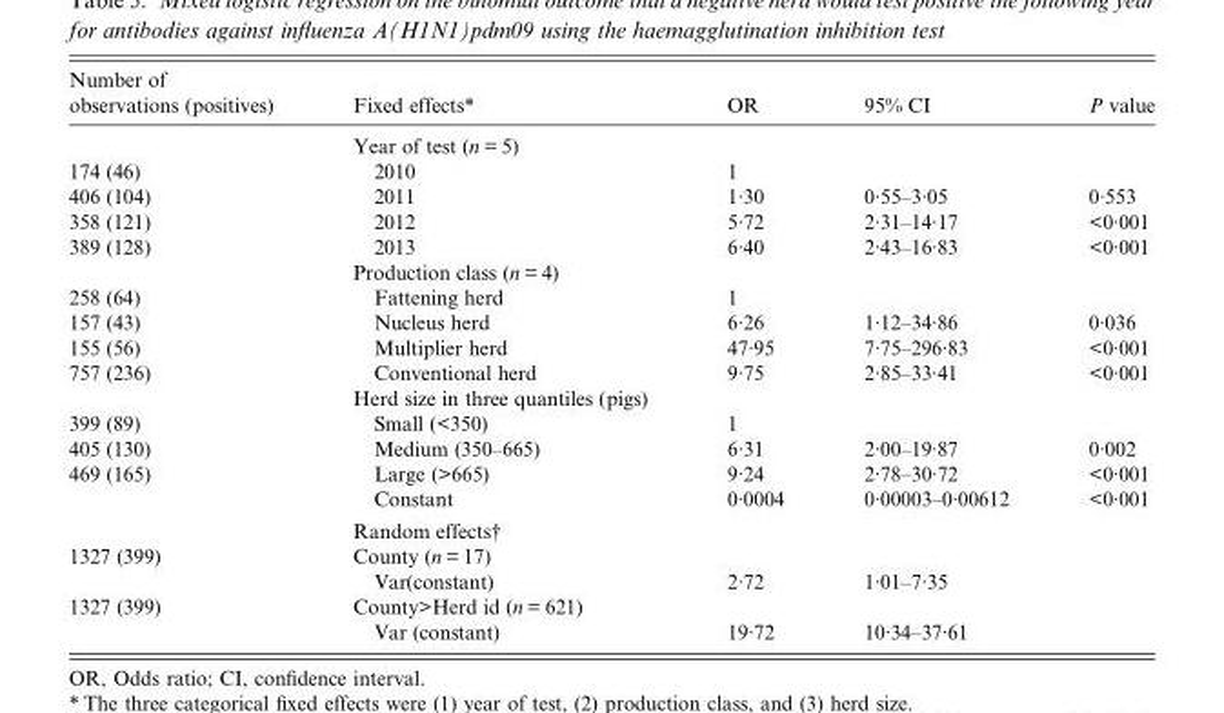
<table><thead><tr><td>Number of observations (positives)</td><td>Fixed effects*</td><td>OR</td><td>95% CI</td><td>P value</td></tr></thead><tbody><tr><td></td><td>Year of test (n = 5)</td><td></td><td></td><td></td></tr><tr><td>174 (46)</td><td>2010</td><td>1</td><td></td><td></td></tr><tr><td>406 (104)</td><td>2011</td><td>1·30</td><td>0·55–3·05</td><td>0·553</td></tr><tr><td>358 (121)</td><td>2012</td><td>5·72</td><td>2·31–14·17</td><td>&lt;0·001</td></tr><tr><td rowspan="2">389 (128)</td><td>2013</td><td>6·40</td><td>2·43–16·83</td><td>&lt;0·001</td></tr><tr><td>Production class (n = 4)</td><td></td><td></td><td></td></tr><tr><td>258 (64)</td><td>Fattening herd</td><td>1</td><td></td><td></td></tr><tr><td>157 (43)</td><td>Nucleus herd</td><td>6·26</td><td>1·12–34·86</td><td>0·036</td></tr><tr><td>155 (56)</td><td>Multiplier herd</td><td>47·95</td><td>7·75–296·83</td><td>&lt;0·001</td></tr><tr><td rowspan="2">757 (236)</td><td>Conventional herd</td><td>9·75</td><td>2·85–33·41</td><td>&lt;0·001</td></tr><tr><td>Herd size in three quantiles (pigs)</td><td></td><td></td><td></td></tr><tr><td>399 (89)</td><td>Small (&lt;350)</td><td>1</td><td></td><td></td></tr><tr><td>405 (130)</td><td>Medium (350–665)</td><td>6·31</td><td>2·00–19·87</td><td>0·002</td></tr><tr><td rowspan="3">469 (165)</td><td>Large (&gt;665)</td><td>9·24</td><td>2·78–30·72</td><td>&lt;0·001</td></tr><tr><td>Constant</td><td>0·0004</td><td>0·00003–0·00612</td><td>&lt;0·001</td></tr><tr><td>Random effects†</td><td></td><td></td><td></td></tr><tr><td rowspan="2">1327 (399)</td><td>County (n = 17)</td><td></td><td></td><td></td></tr><tr><td>Var(constant)</td><td>2·72</td><td>1·01–7·35</td><td></td></tr><tr><td rowspan="2">1327 (399)</td><td>County&gt;Herd id (n = 621)</td><td></td><td></td><td></td></tr><tr><td>Var (constant)</td><td>19·72</td><td>10·34–37·61</td><td></td></tr></tbody></table>